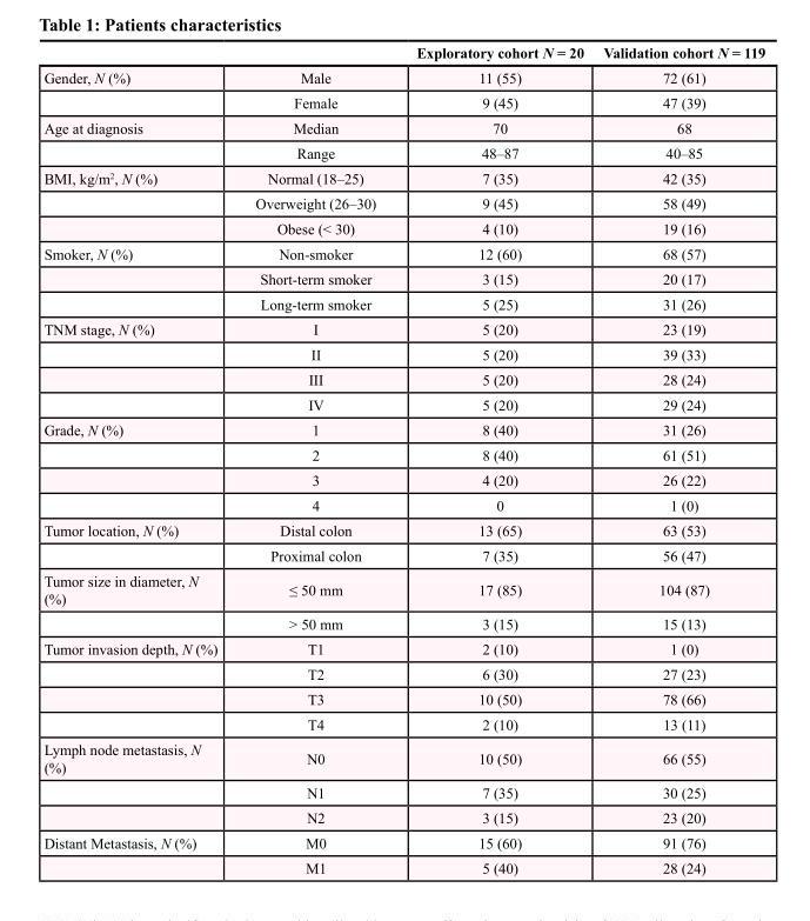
<table><thead><tr><td></td><td></td><td>Exploratory cohort N = 20</td><td>Validation cohort N = 119</td></tr></thead><tbody><tr><td rowspan="2">Gender, N (%)</td><td>Male</td><td>11 (55)</td><td>72 (61)</td></tr><tr><td>Female</td><td>9 (45)</td><td>47 (39)</td></tr><tr><td rowspan="2">Age at diagnosis</td><td>Median</td><td>70</td><td>68</td></tr><tr><td>Range</td><td>48–87</td><td>40–85</td></tr><tr><td rowspan="3">BMI, kg/m<sup>2</sup>, N (%)</td><td>Normal (18–25)</td><td>7 (35)</td><td>42 (35)</td></tr><tr><td>Overweight (26–30)</td><td>9 (45)</td><td>58 (49)</td></tr><tr><td>Obese (&lt; 30)</td><td>4 (10)</td><td>19 (16)</td></tr><tr><td rowspan="3">Smoker, N (%)</td><td>Non-smoker</td><td>12 (60)</td><td>68 (57)</td></tr><tr><td>Short-term smoker</td><td>3 (15)</td><td>20 (17)</td></tr><tr><td>Long-term smoker</td><td>5 (25)</td><td>31 (26)</td></tr><tr><td rowspan="4">TNM stage, N (%)</td><td>I</td><td>5 (20)</td><td>23 (19)</td></tr><tr><td>II</td><td>5 (20)</td><td>39 (33)</td></tr><tr><td>III</td><td>5 (20)</td><td>28 (24)</td></tr><tr><td>IV</td><td>5 (20)</td><td>29 (24)</td></tr><tr><td rowspan="4">Grade, N (%)</td><td>1</td><td>8 (40)</td><td>31 (26)</td></tr><tr><td>2</td><td>8 (40)</td><td>61 (51)</td></tr><tr><td>3</td><td>4 (20)</td><td>26 (22)</td></tr><tr><td>4</td><td>0</td><td>1 (0)</td></tr><tr><td rowspan="2">Tumor location, N (%)</td><td>Distal colon</td><td>13 (65)</td><td>63 (53)</td></tr><tr><td>Proximal colon</td><td>7 (35)</td><td>56 (47)</td></tr><tr><td rowspan="2">Tumor size in diameter, N (%)</td><td>≤ 50 mm</td><td>17 (85)</td><td>104 (87)</td></tr><tr><td>&gt; 50 mm</td><td>3 (15)</td><td>15 (13)</td></tr><tr><td rowspan="4">Tumor invasion depth, N (%)</td><td>T1</td><td>2 (10)</td><td>1 (0)</td></tr><tr><td>T2</td><td>6 (30)</td><td>27 (23)</td></tr><tr><td>T3</td><td>10 (50)</td><td>78 (66)</td></tr><tr><td>T4</td><td>2 (10)</td><td>13 (11)</td></tr><tr><td rowspan="3">Lymph node metastasis, N (%)</td><td>N0</td><td>10 (50)</td><td>66 (55)</td></tr><tr><td>N1</td><td>7 (35)</td><td>30 (25)</td></tr><tr><td>N2</td><td>3 (15)</td><td>23 (20)</td></tr><tr><td rowspan="2">Distant Metastasis, N (%)</td><td>M0</td><td>15 (60)</td><td>91 (76)</td></tr><tr><td>M1</td><td>5 (40)</td><td>28 (24)</td></tr></tbody></table>